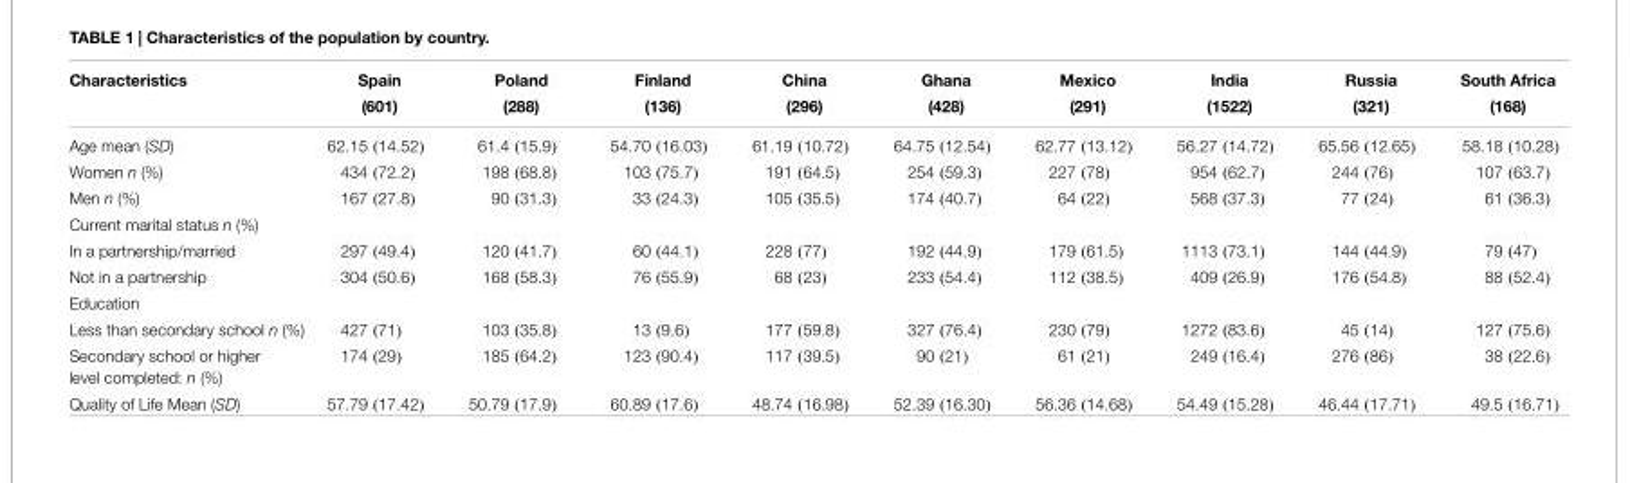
<table><thead><tr><td rowspan="2">Characteristics</td><td rowspan="2">Spain (601)</td><td rowspan="2">Poland (288)</td><td rowspan="2">Finland (136)</td><td rowspan="2">China (296)</td><td rowspan="2">Ghana (428)</td><td rowspan="2">Mexico (291)</td><td rowspan="2">India (1522)</td><td rowspan="2">Russia (321)</td><td rowspan="2">South Africa (168)</td></tr><tr></tr></thead><tbody><tr><td>Age mean (SD)</td><td>62.15 (14.52)</td><td>61.4 (15.9)</td><td>54.70 (16.03)</td><td>61.19 (10.72)</td><td>64.75 (12.54)</td><td>62.77 (13.12)</td><td>56.27 (14.72)</td><td>65.56 (12.65)</td><td>58.18 (10.28)</td></tr><tr><td>Women n (%)</td><td>434 (72.2)</td><td>198 (68.8)</td><td>103 (75.7)</td><td>191 (64.5)</td><td>254 (59.3)</td><td>227 (78)</td><td>954 (62.7)</td><td>244 (76)</td><td>107 (63.7)</td></tr><tr><td>Men n (%)</td><td>167 (27.8)</td><td>90 (31.3)</td><td>33 (24.3)</td><td>105 (35.5)</td><td>174 (40.7)</td><td>64 (22)</td><td>568 (37.3)</td><td>77 (24)</td><td>61 (36.3)</td></tr><tr><td colspan="10">Current marital status n (%)</td></tr><tr><td>In a partnership/married</td><td>297 (49.4)</td><td>120 (41.7)</td><td>60 (44.1)</td><td>228 (77)</td><td>192 (44.9)</td><td>179 (61.5)</td><td>1113 (73.1)</td><td>144 (44.9)</td><td>79 (47)</td></tr><tr><td>Not in a partnership</td><td>304 (50.6)</td><td>168 (58.3)</td><td>76 (55.9)</td><td>68 (23)</td><td>233 (54.4)</td><td>112 (38.5)</td><td>409 (26.9)</td><td>176 (54.8)</td><td>88 (52.4)</td></tr><tr><td colspan="10">Education</td></tr><tr><td>Less than secondary school n (%)</td><td>427 (71)</td><td>103 (35.8)</td><td>13 (9.6)</td><td>177 (59.8)</td><td>327 (76.4)</td><td>230 (79)</td><td>1272 (83.6)</td><td>45 (14)</td><td>127 (75.6)</td></tr><tr><td>Secondary school or higher level completed: n (%)</td><td>174 (29)</td><td>185 (64.2)</td><td>123 (90.4)</td><td>117 (39.5)</td><td>90 (21)</td><td>61 (21)</td><td>249 (16.4)</td><td>276 (86)</td><td>38 (22.6)</td></tr><tr><td>Quality of Life Mean (SD)</td><td>57.79 (17.42)</td><td>50.79 (17.9)</td><td>60.89 (17.6)</td><td>48.74 (16.98)</td><td>52.39 (16.30)</td><td>56.36 (14.68)</td><td>54.49 (15.28)</td><td>46.44 (17.71)</td><td>49.5 (16.71)</td></tr></tbody></table>